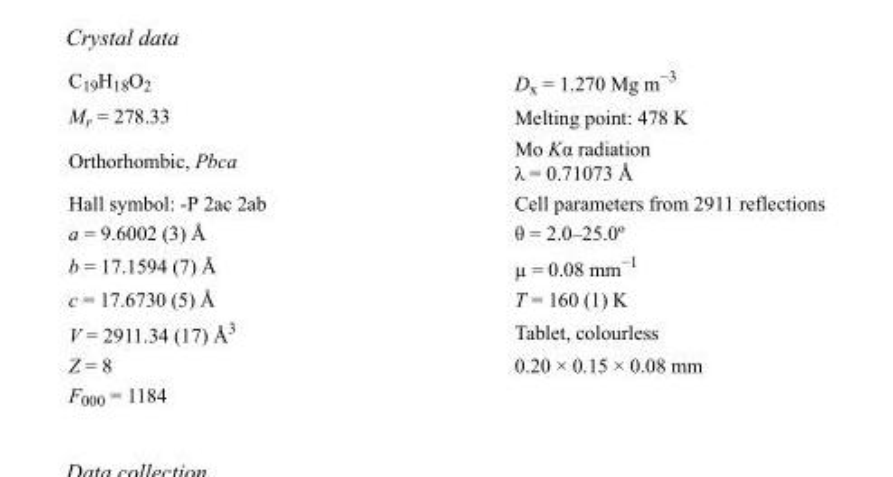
<table><tbody><tr><td>C<sub>19</sub>H<sub>18</sub>O<sub>2</sub></td><td>D<sub>x</sub> = 1.270 Mg m<sup>−3</sup></td></tr><tr><td>M<sub>r</sub> = 278.33</td><td>Melting point: 478 K</td></tr><tr><td>Orthorhombic, Pbca</td><td>Mo Kα radiation λ = 0.71073 Å</td></tr><tr><td>Hall symbol: -P 2ac 2ab</td><td>Cell parameters from 2911 reflections</td></tr><tr><td>a = 9.6002 (3) Å</td><td>θ = 2.0–25.0º</td></tr><tr><td>b = 17.1594 (7) Å</td><td>µ = 0.08 mm<sup>−1</sup></td></tr><tr><td>c = 17.6730 (5) Å</td><td>T = 160 (1) K</td></tr><tr><td>V = 2911.34 (17) Å<sup>3</sup></td><td>Tablet, colourless</td></tr><tr><td>Z = 8</td><td>0.20 × 0.15 × 0.08 mm</td></tr><tr><td>F<sub>000</sub> = 1184</td><td></td></tr></tbody></table>